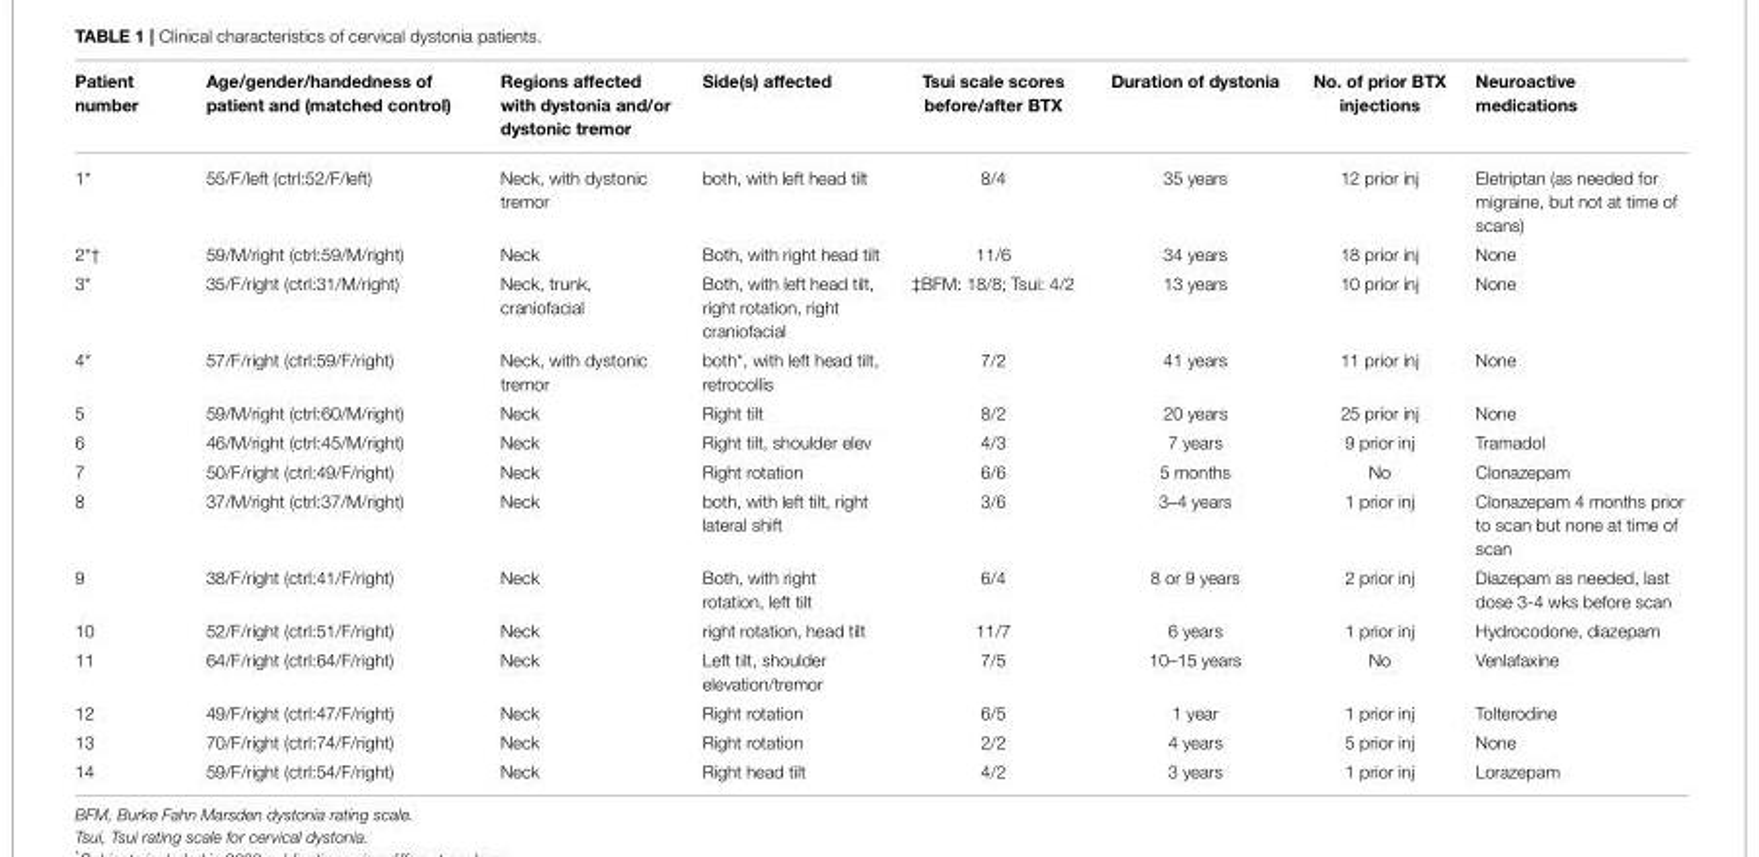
<table><thead><tr><td>Patient number</td><td>Age/gender/handedness of patient and (matched control)</td><td>Regions affected with dystonia and/or dystonic tremor</td><td>Side(s) affected</td><td>Tsui scale scores before/after BTX</td><td>Duration of dystonia</td><td>No. of prior BTX injections</td><td>Neuroactive medications</td></tr></thead><tbody><tr><td>1*</td><td>55/F/left (ctrl:52/F/left)</td><td>Neck, with dystonic tremor</td><td>both, with left head tilt</td><td>8/4</td><td>35 years</td><td>12 prior inj</td><td>Eletriptan (as needed for migraine, but not at time of scans)</td></tr><tr><td>2<sup>*†</sup></td><td>59/M/right (ctrl:59/M/right)</td><td>Neck</td><td>Both, with right head tilt</td><td>11/6</td><td>34 years</td><td>18 prior inj</td><td>None</td></tr><tr><td>3*</td><td>35/F/right (ctrl:31/M/right)</td><td>Neck, trunk, craniofacial</td><td>Both, with left head tilt, right rotation, right craniofacial</td><td><sup>‡</sup>BFM: 18/8; Tsui: 4/2</td><td>13 years</td><td>10 prior inj</td><td>None</td></tr><tr><td>4*</td><td>57/F/right (ctrl:59/F/right)</td><td>Neck, with dystonic tremor</td><td>both*, with left head tilt, retrocollis</td><td>7/2</td><td>41 years</td><td>11 prior inj</td><td>None</td></tr><tr><td>5</td><td>59/M/right (ctrl:60/M/right)</td><td>Neck</td><td>Right tilt</td><td>8/2</td><td>20 years</td><td>25 prior inj</td><td>None</td></tr><tr><td>6</td><td>46/M/right (ctrl:45/M/right)</td><td>Neck</td><td>Right tilt, shoulder elev</td><td>4/3</td><td>7 years</td><td>9 prior inj</td><td>Tramadol</td></tr><tr><td>7</td><td>50/F/right (ctrl:49/F/right)</td><td>Neck</td><td>Right rotation</td><td>6/6</td><td>5 months</td><td>No</td><td>Clonazepam</td></tr><tr><td>8</td><td>37/M/right (ctrl:37/M/right)</td><td>Neck</td><td>both, with left tilt, right lateral shift</td><td>3/6</td><td>3–4 years</td><td>1 prior inj</td><td>Clonazepam 4 months prior to scan but none at time of scan</td></tr><tr><td>9</td><td>38/F/right (ctrl:41/F/right)</td><td>Neck</td><td>Both, with right rotation, left tilt</td><td>6/4</td><td>8 or 9 years</td><td>2 prior inj</td><td>Diazepam as needed, last dose 3-4 wks before scan</td></tr><tr><td>10</td><td>52/F/right (ctrl:51/F/right)</td><td>Neck</td><td>right rotation, head tilt</td><td>11/7</td><td>6 years</td><td>1 prior inj</td><td>Hydrocodone, diazepam</td></tr><tr><td>11</td><td>64/F/right (ctrl:64/F/right)</td><td>Neck</td><td>Left tilt, shoulder elevation/tremor</td><td>7/5</td><td>10–15 years</td><td>No</td><td>Venlafaxine</td></tr><tr><td>12</td><td>49/F/right (ctrl:47/F/right)</td><td>Neck</td><td>Right rotation</td><td>6/5</td><td>1 year</td><td>1 prior inj</td><td>Tolterodine</td></tr><tr><td>13</td><td>70/F/right (ctrl:74/F/right)</td><td>Neck</td><td>Right rotation</td><td>2/2</td><td>4 years</td><td>5 prior inj</td><td>None</td></tr><tr><td>14</td><td>59/F/right (ctrl:54/F/right)</td><td>Neck</td><td>Right head tilt</td><td>4/2</td><td>3 years</td><td>1 prior inj</td><td>Lorazepam</td></tr></tbody></table>